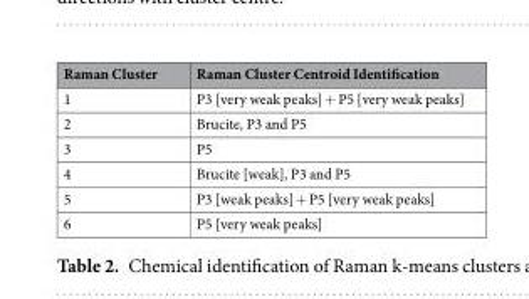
<table><thead><tr><td>Raman Cluster</td><td>Raman Cluster Centroid Identification</td></tr></thead><tbody><tr><td>1</td><td>P3 [very weak peaks] + P5 [very weak peaks]</td></tr><tr><td>2</td><td>Brucite, P3 and P5</td></tr><tr><td>3</td><td>P5</td></tr><tr><td>4</td><td>Brucite [weak], P3 and P5</td></tr><tr><td>5</td><td>P3 [weak peaks] + P5 [very weak peaks]</td></tr><tr><td>6</td><td>P5 [very weak peaks]</td></tr></tbody></table>